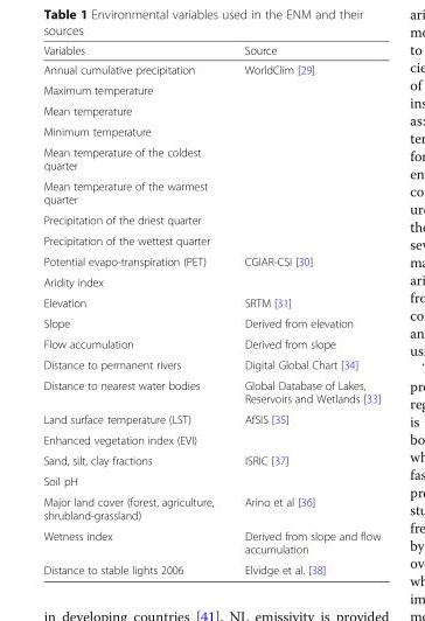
<table><thead><tr><td>Variables</td><td>Source</td></tr></thead><tbody><tr><td>Annual cumulative precipitation</td><td rowspan="8">WorldClim [29]</td></tr><tr><td>Maximum temperature</td></tr><tr><td>Mean temperature</td></tr><tr><td>Minimum temperature</td></tr><tr><td>Mean temperature of the coldest quarter</td></tr><tr><td>Mean temperature of the warmest quarter</td></tr><tr><td>Precipitation of the driest quarter</td></tr><tr><td>Precipitation of the wettest quarter</td></tr><tr><td>Potential evapo-transpiration (PET)</td><td rowspan="2">CGIAR-CSI [30]</td></tr><tr><td>Aridity index</td></tr><tr><td>Elevation</td><td>SRTM [31]</td></tr><tr><td>Slope</td><td>Derived from elevation</td></tr><tr><td>Flow accumulation</td><td>Derived from slope</td></tr><tr><td>Distance to permanent rivers</td><td>Digital Global Chart [34]</td></tr><tr><td>Distance to nearest water bodies</td><td>Global Database of Lakes, Reservoirs and Wetlands [33]</td></tr><tr><td>Land surface temperature (LST)</td><td rowspan="2">AfSIS [35]</td></tr><tr><td>Enhanced vegetation index (EVI)</td></tr><tr><td>Sand, silt, clay fractions</td><td rowspan="2">ISRIC [37]</td></tr><tr><td>Soil pH</td></tr><tr><td>Major land cover (forest, agriculture, shrubland-grassland)</td><td>Arino et al [36]</td></tr><tr><td>Wetness index</td><td>Derived from slope and flow accumulation</td></tr><tr><td>Distance to stable lights 2006</td><td>Elvidge et al. [38]</td></tr></tbody></table>